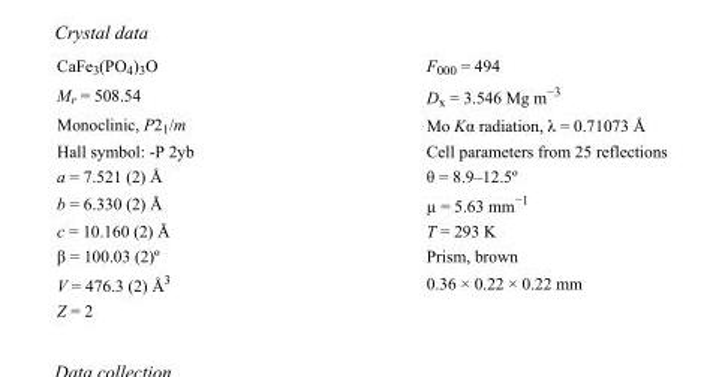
<table><tbody><tr><td>CaFe<sub>3</sub>(PO<sub>4</sub>)<sub>3</sub>O</td><td>F000 = 494</td></tr><tr><td>M<sub>r</sub> = 508.54</td><td>D<sub>x</sub> = 3.546 Mg m<sup>−3</sup></td></tr><tr><td>Monoclinic, P2<sub>1</sub>/m</td><td>Mo Kα radiation, λ = 0.71073 Å</td></tr><tr><td>Hall symbol: -P 2yb</td><td>Cell parameters from 25 reflections</td></tr><tr><td>a = 7.521 (2) Å</td><td>θ = 8.9–12.5º</td></tr><tr><td>b = 6.330 (2) Å</td><td>µ = 5.63 mm<sup>−1</sup></td></tr><tr><td>c = 10.160 (2) Å</td><td>T = 293 K</td></tr><tr><td>β = 100.03 (2)º</td><td>Prism, brown</td></tr><tr><td>V = 476.3 (2) Å<sup>3</sup></td><td>0.36 × 0.22 × 0.22 mm</td></tr><tr><td>Z = 2</td><td></td></tr></tbody></table>